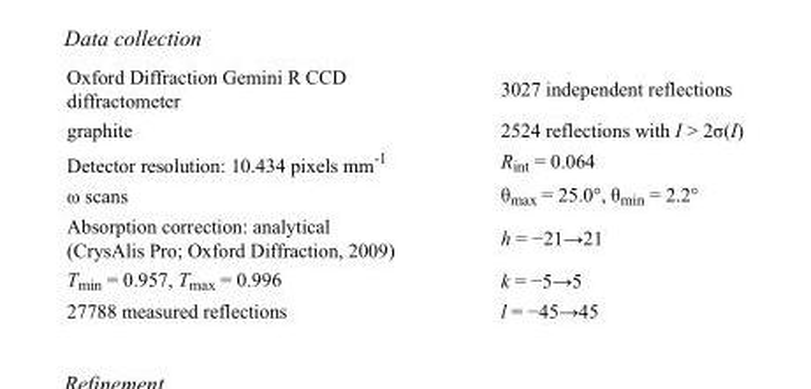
<table><tbody><tr><td>Oxford Diffraction Gemini R CCD diffractometer</td><td>3027 independent reflections</td></tr><tr><td>graphite</td><td>2524 reflections with I &gt; 2σ(I)</td></tr><tr><td>Detector resolution: 10.434 pixels mm<sup>-1</sup></td><td>R<sub>int</sub> = 0.064</td></tr><tr><td>ω scans</td><td>θ<sub>max</sub> = 25.0°, θ<sub>min</sub> = 2.2°</td></tr><tr><td>Absorption correction: analytical (CrysAlis Pro; Oxford Diffraction, 2009)</td><td>h = −21→21</td></tr><tr><td>T<sub>min</sub> = 0.957, T<sub>max</sub> = 0.996</td><td>k = −5→5</td></tr><tr><td>27788 measured reflections</td><td>l = −45→45</td></tr></tbody></table>